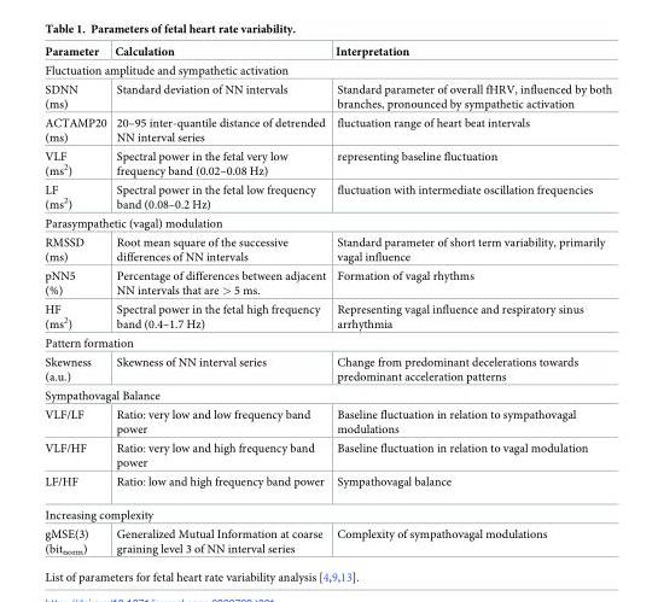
<table><thead><tr><td>Parameter</td><td>Calculation</td><td>Interpretation</td></tr></thead><tbody><tr><td colspan="3">Fluctuation amplitude and sympathetic activation</td></tr><tr><td>SDNN (ms)</td><td>Standard deviation of NN intervals</td><td>Standard parameter of overall fHRV, influenced by both branches, pronounced by sympathetic activation</td></tr><tr><td>ACTAMP20 (ms)</td><td>20–95 inter-quantile distance of detrended NN interval series</td><td>fluctuation range of heart beat intervals</td></tr><tr><td>VLF (ms<sup>2</sup>)</td><td>Spectral power in the fetal very low frequency band (0.02–0.08 Hz)</td><td>representing baseline fluctuation</td></tr><tr><td>LF (ms<sup>2</sup>)</td><td>Spectral power in the fetal low frequency band (0.08–0.2 Hz)</td><td>fluctuation with intermediate oscillation frequencies</td></tr><tr><td colspan="3">Parasympathetic (vagal) modulation</td></tr><tr><td>RMSSD (ms)</td><td>Root mean square of the successive differences of NN intervals</td><td>Standard parameter of short term variability, primarily vagal influence</td></tr><tr><td>pNN5 (%)</td><td>Percentage of differences between adjacent NN intervals that are &gt; 5 ms.</td><td>Formation of vagal rhythms</td></tr><tr><td>HF (ms<sup>2</sup>)</td><td>Spectral power in the fetal high frequency band (0.4–1.7 Hz)</td><td>Representing vagal influence and respiratory sinus arrhythmia</td></tr><tr><td colspan="3">Pattern formation</td></tr><tr><td>Skewness (a.u.)</td><td>Skewness of NN interval series</td><td>Change from predominant decelerations towards predominant acceleration patterns</td></tr><tr><td colspan="3">Sympathovagal Balance</td></tr><tr><td>VLF/LF</td><td>Ratio: very low and low frequency band power</td><td>Baseline fluctuation in relation to sympathovagal modulations</td></tr><tr><td>VLF/HF</td><td>Ratio: very low and high frequency band power</td><td>Baseline fluctuation in relation to vagal modulation</td></tr><tr><td>LF/HF</td><td>Ratio: low and high frequency band power</td><td>Sympathovagal balance</td></tr><tr><td colspan="3">Increasing complexity</td></tr><tr><td>gMSE(3) (bit<sub>norm</sub>)</td><td>Generalized Mutual Information at coarse graining level 3 of NN interval series</td><td>Complexity of sympathovagal modulations</td></tr></tbody></table>